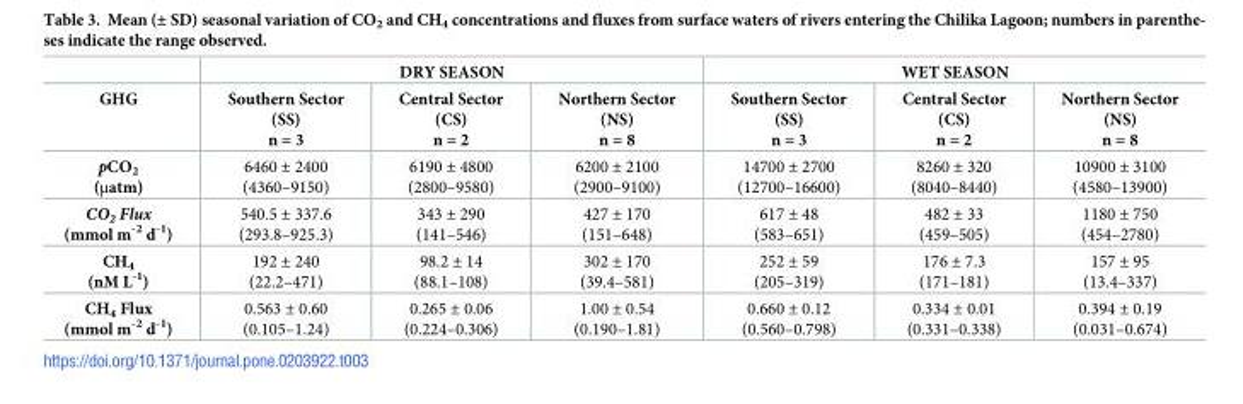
<table><thead><tr><td rowspan="2">GHG</td><td colspan="3">DRY SEASON</td><td colspan="3">WET SEASON</td></tr><tr><td>Southern Sector (SS) n = 3</td><td>Central Sector (CS) n = 2</td><td>Northern Sector (NS) n = 8</td><td>Southern Sector (SS) n = 3</td><td>Central Sector (CS) n = 2</td><td>Northern Sector (NS) n = 8</td></tr></thead><tbody><tr><td>pCO<sub>2</sub> (μatm)</td><td>6460 ± 2400 (4360–9150)</td><td>6190 ± 4800 (2800–9580)</td><td>6200 ± 2100 (2900–9100)</td><td>14700 ± 2700 (12700–16600)</td><td>8260 ± 320 (8040–8440)</td><td>10900 ± 3100 (4580–13900)</td></tr><tr><td>CO<sub>2</sub> Flux (mmol m<sup>-2</sup> d<sup>-1</sup>)</td><td>540.5 ± 337.6 (293.8–925.3)</td><td>343 ± 290 (141–546)</td><td>427 ± 170 (151–648)</td><td>617 ± 48 (583–651)</td><td>482 ± 33 (459–505)</td><td>1180 ± 750 (454–2780)</td></tr><tr><td>CH<sub>4</sub> (nM L<sup>-1</sup>)</td><td>192 ± 240 (22.2–471)</td><td>98.2 ± 14 (88.1–108)</td><td>302 ± 170 (39.4–581)</td><td>252 ± 59 (205–319)</td><td>176 ± 7.3 (171–181)</td><td>157 ± 95 (13.4–337)</td></tr><tr><td>CH<sub>4</sub> Flux (mmol m<sup>-2</sup> d<sup>-1</sup>)</td><td>0.563 ± 0.60 (0.105–1.24)</td><td>0.265 ± 0.06 (0.224–0.306)</td><td>1.00 ± 0.54 (0.190–1.81)</td><td>0.660 ± 0.12 (0.560–0.798)</td><td>0.334 ± 0.01 (0.331–0.338)</td><td>0.394 ± 0.19 (0.031–0.674)</td></tr></tbody></table>